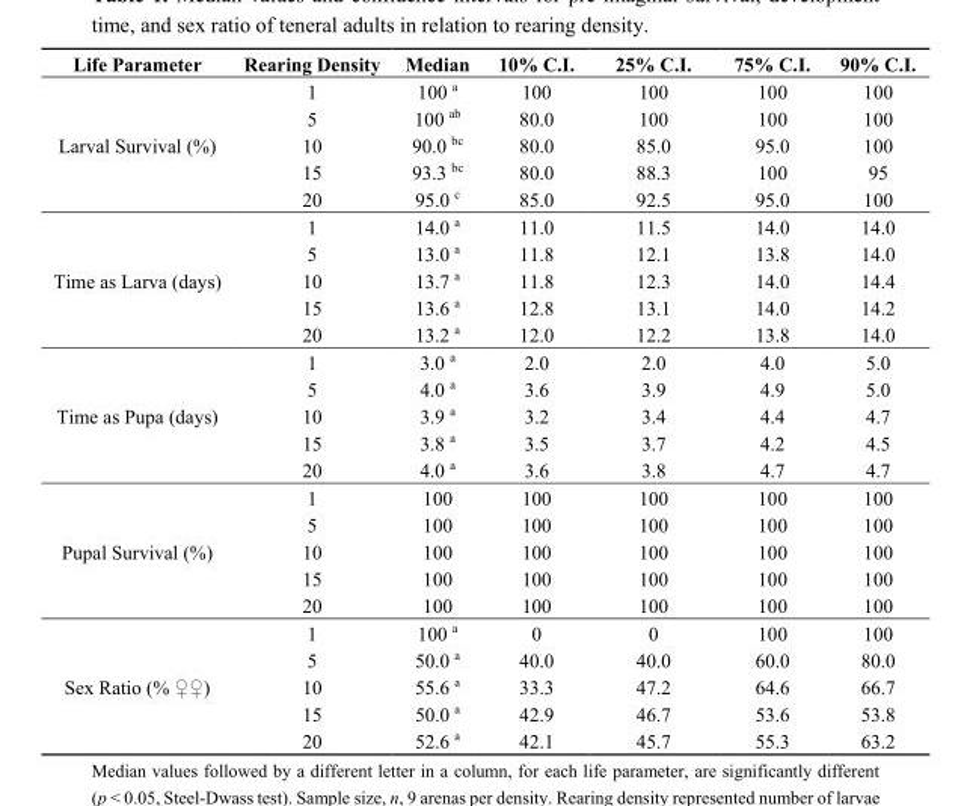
<table><thead><tr><td>Life Parameter</td><td>Rearing Density</td><td>Median</td><td>10% C.I.</td><td>25% C.I.</td><td>75% C.I.</td><td>90% C.I.</td></tr></thead><tbody><tr><td rowspan="5">Larval Survival (%)</td><td>1</td><td>100 <sup>a</sup></td><td>100</td><td>100</td><td>100</td><td>100</td></tr><tr><td>5</td><td>100 <sup>ab</sup></td><td>80.0</td><td>100</td><td>100</td><td>100</td></tr><tr><td>10</td><td>90.0 <sup>bc</sup></td><td>80.0</td><td>85.0</td><td>95.0</td><td>100</td></tr><tr><td>15</td><td>93.3 <sup>bc</sup></td><td>80.0</td><td>88.3</td><td>100</td><td>95</td></tr><tr><td>20</td><td>95.0 <sup>c</sup></td><td>85.0</td><td>92.5</td><td>95.0</td><td>100</td></tr><tr><td rowspan="5">Time as Larva (days)</td><td>1</td><td>14.0 <sup>a</sup></td><td>11.0</td><td>11.5</td><td>14.0</td><td>14.0</td></tr><tr><td>5</td><td>13.0 <sup>a</sup></td><td>11.8</td><td>12.1</td><td>13.8</td><td>14.0</td></tr><tr><td>10</td><td>13.7 <sup>a</sup></td><td>11.8</td><td>12.3</td><td>14.0</td><td>14.4</td></tr><tr><td>15</td><td>13.6 <sup>a</sup></td><td>12.8</td><td>13.1</td><td>14.0</td><td>14.2</td></tr><tr><td>20</td><td>13.2 <sup>a</sup></td><td>12.0</td><td>12.2</td><td>13.8</td><td>14.0</td></tr><tr><td rowspan="5">Time as Pupa (days)</td><td>1</td><td>3.0 <sup>a</sup></td><td>2.0</td><td>2.0</td><td>4.0</td><td>5.0</td></tr><tr><td>5</td><td>4.0 <sup>a</sup></td><td>3.6</td><td>3.9</td><td>4.9</td><td>5.0</td></tr><tr><td>10</td><td>3.9 <sup>a</sup></td><td>3.2</td><td>3.4</td><td>4.4</td><td>4.7</td></tr><tr><td>15</td><td>3.8 <sup>a</sup></td><td>3.5</td><td>3.7</td><td>4.2</td><td>4.5</td></tr><tr><td>20</td><td>4.0 <sup>a</sup></td><td>3.6</td><td>3.8</td><td>4.7</td><td>4.7</td></tr><tr><td rowspan="5">Pupal Survival (%)</td><td>1</td><td>100</td><td>100</td><td>100</td><td>100</td><td>100</td></tr><tr><td>5</td><td>100</td><td>100</td><td>100</td><td>100</td><td>100</td></tr><tr><td>10</td><td>100</td><td>100</td><td>100</td><td>100</td><td>100</td></tr><tr><td>15</td><td>100</td><td>100</td><td>100</td><td>100</td><td>100</td></tr><tr><td>20</td><td>100</td><td>100</td><td>100</td><td>100</td><td>100</td></tr><tr><td rowspan="5">Sex Ratio (% ♀♀)</td><td>1</td><td>100 <sup>a</sup></td><td>0</td><td>0</td><td>100</td><td>100</td></tr><tr><td>5</td><td>50.0 <sup>a</sup></td><td>40.0</td><td>40.0</td><td>60.0</td><td>80.0</td></tr><tr><td>10</td><td>55.6 <sup>a</sup></td><td>33.3</td><td>47.2</td><td>64.6</td><td>66.7</td></tr><tr><td>15</td><td>50.0 <sup>a</sup></td><td>42.9</td><td>46.7</td><td>53.6</td><td>53.8</td></tr><tr><td>20</td><td>52.6 <sup>a</sup></td><td>42.1</td><td>45.7</td><td>55.3</td><td>63.2</td></tr></tbody></table>